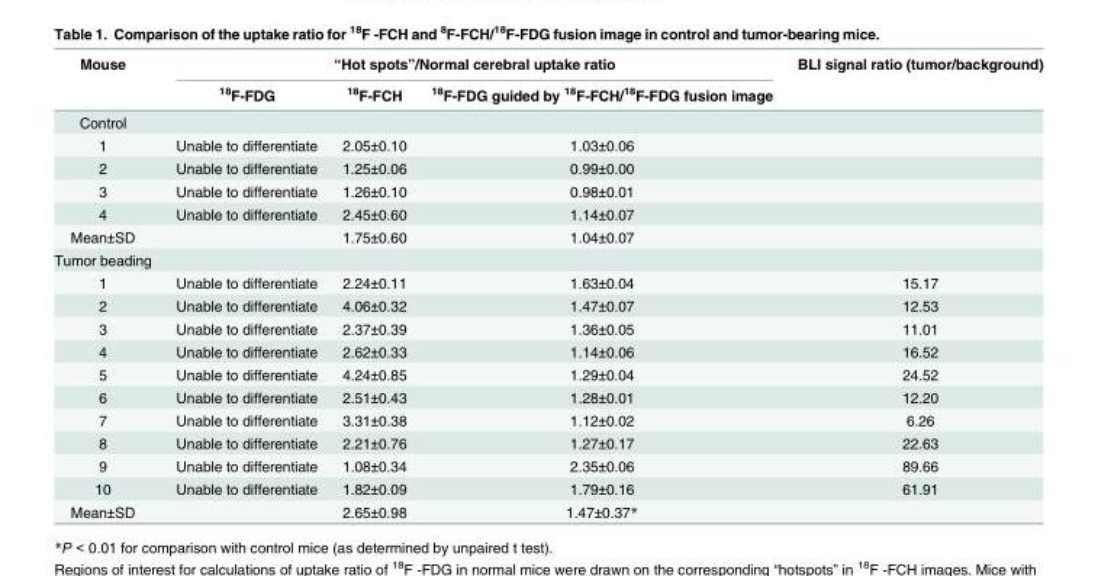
<table><thead><tr><td rowspan="2">Mouse</td><td colspan="3">“Hot spots”/Normal cerebral uptake ratio</td><td rowspan="2">BLI signal ratio (tumor/background)</td></tr><tr><td><sup>18</sup>F-FDG</td><td><sup>18</sup>F-FCH</td><td><sup>18</sup>F-FDG guided by <sup>18</sup>F-FCH/<sup>18</sup>F-FDG fusion image</td></tr></thead><tbody><tr><td colspan="5">Control</td></tr><tr><td>1</td><td>Unable to differentiate</td><td>2.05±0.10</td><td>1.03±0.06</td><td></td></tr><tr><td>2</td><td>Unable to differentiate</td><td>1.25±0.06</td><td>0.99±0.00</td><td></td></tr><tr><td>3</td><td>Unable to differentiate</td><td>1.26±0.10</td><td>0.98±0.01</td><td></td></tr><tr><td>4</td><td>Unable to differentiate</td><td>2.45±0.60</td><td>1.14±0.07</td><td></td></tr><tr><td>Mean±SD</td><td></td><td>1.75±0.60</td><td>1.04±0.07</td><td></td></tr><tr><td colspan="5">Tumor beading</td></tr><tr><td>1</td><td>Unable to differentiate</td><td>2.24±0.11</td><td>1.63±0.04</td><td>15.17</td></tr><tr><td>2</td><td>Unable to differentiate</td><td>4.06±0.32</td><td>1.47±0.07</td><td>12.53</td></tr><tr><td>3</td><td>Unable to differentiate</td><td>2.37±0.39</td><td>1.36±0.05</td><td>11.01</td></tr><tr><td>4</td><td>Unable to differentiate</td><td>2.62±0.33</td><td>1.14±0.06</td><td>16.52</td></tr><tr><td>5</td><td>Unable to differentiate</td><td>4.24±0.85</td><td>1.29±0.04</td><td>24.52</td></tr><tr><td>6</td><td>Unable to differentiate</td><td>2.51±0.43</td><td>1.28±0.01</td><td>12.20</td></tr><tr><td>7</td><td>Unable to differentiate</td><td>3.31±0.38</td><td>1.12±0.02</td><td>6.26</td></tr><tr><td>8</td><td>Unable to differentiate</td><td>2.21±0.76</td><td>1.27±0.17</td><td>22.63</td></tr><tr><td>9</td><td>Unable to differentiate</td><td>1.08±0.34</td><td>2.35±0.06</td><td>89.66</td></tr><tr><td>10</td><td>Unable to differentiate</td><td>1.82±0.09</td><td>1.79±0.16</td><td>61.91</td></tr><tr><td>Mean±SD</td><td></td><td>2.65±0.98</td><td>1.47±0.37*</td><td></td></tr></tbody></table>